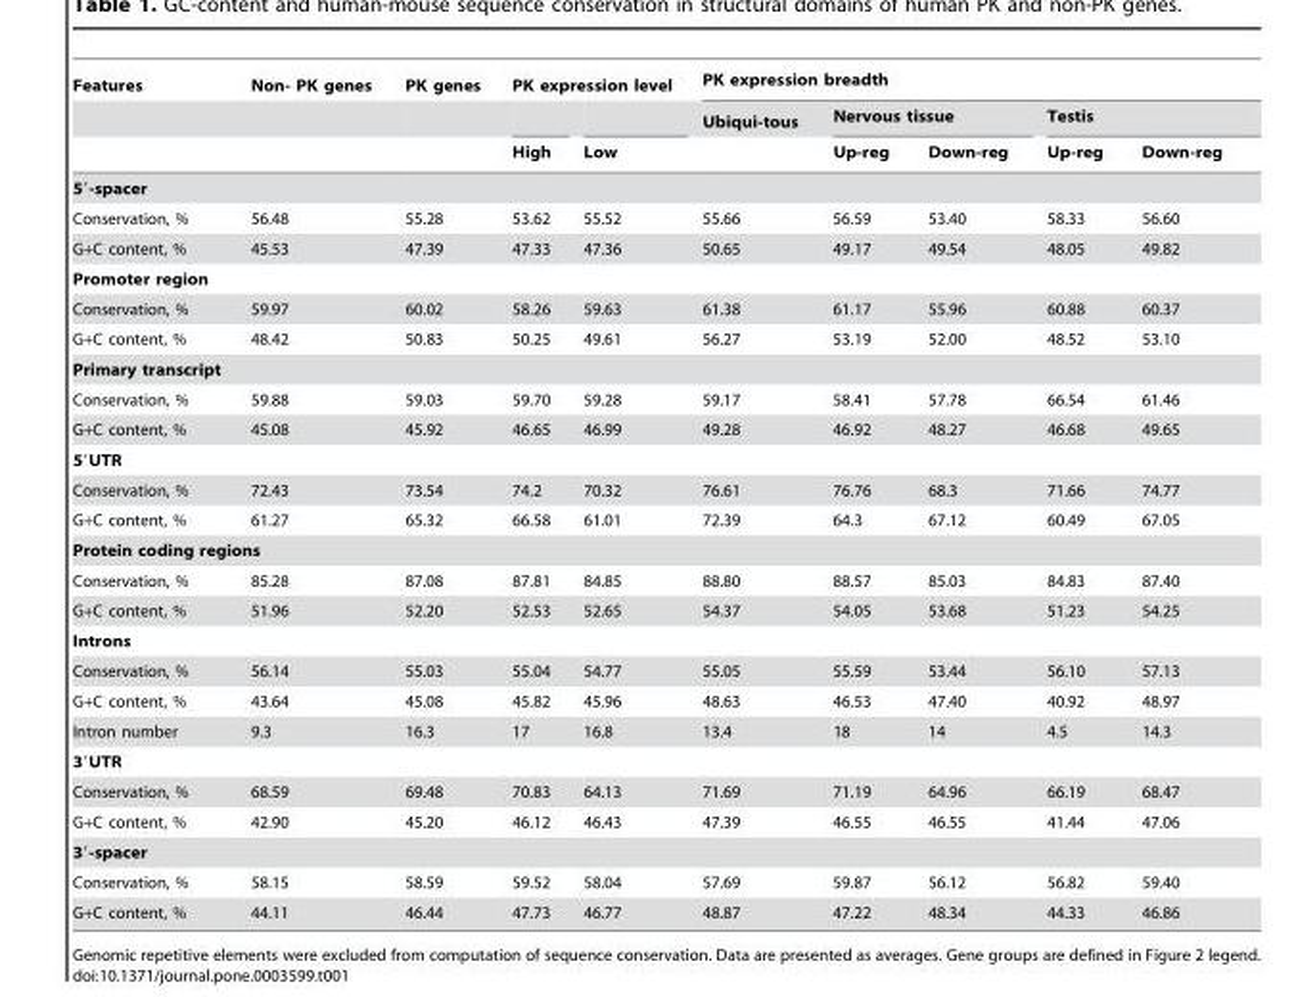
<table><thead><tr><td rowspan="3">Features</td><td rowspan="3">Non- PK genes</td><td rowspan="3">PK genes</td><td colspan="2">PK expression level</td><td colspan="5">PK expression breadth</td></tr><tr><td rowspan="2">High</td><td rowspan="2">Low</td><td rowspan="2">Ubiqui-tous</td><td colspan="2">Nervous tissue</td><td colspan="2">Testis</td></tr><tr><td>Up-reg</td><td>Down-reg</td><td>Up-reg</td><td>Down-reg</td></tr></thead><tbody><tr><td colspan="10">5′-spacer</td></tr><tr><td>Conservation, %</td><td>56.48</td><td>55.28</td><td>53.62</td><td>55.52</td><td>55.66</td><td>56.59</td><td>53.40</td><td>58.33</td><td>56.60</td></tr><tr><td>G+C content, %</td><td>45.53</td><td>47.39</td><td>47.33</td><td>47.36</td><td>50.65</td><td>49.17</td><td>49.54</td><td>48.05</td><td>49.82</td></tr><tr><td colspan="10">Promoter region</td></tr><tr><td>Conservation, %</td><td>59.97</td><td>60.02</td><td>58.26</td><td>59.63</td><td>61.38</td><td>61.17</td><td>55.96</td><td>60.88</td><td>60.37</td></tr><tr><td>G+C content, %</td><td>48.42</td><td>50.83</td><td>50.25</td><td>49.61</td><td>56.27</td><td>53.19</td><td>52.00</td><td>48.52</td><td>53.10</td></tr><tr><td colspan="10">Primary transcript</td></tr><tr><td>Conservation, %</td><td>59.88</td><td>59.03</td><td>59.70</td><td>59.28</td><td>59.17</td><td>58.41</td><td>57.78</td><td>66.54</td><td>61.46</td></tr><tr><td>G+C content, %</td><td>45.08</td><td>45.92</td><td>46.65</td><td>46.99</td><td>49.28</td><td>46.92</td><td>48.27</td><td>46.68</td><td>49.65</td></tr><tr><td colspan="10">5′UTR</td></tr><tr><td>Conservation, %</td><td>72.43</td><td>73.54</td><td>74.2</td><td>70.32</td><td>76.61</td><td>76.76</td><td>68.3</td><td>71.66</td><td>74.77</td></tr><tr><td>G+C content, %</td><td>61.27</td><td>65.32</td><td>66.58</td><td>61.01</td><td>72.39</td><td>64.3</td><td>67.12</td><td>60.49</td><td>67.05</td></tr><tr><td colspan="10">Protein coding regions</td></tr><tr><td>Conservation, %</td><td>85.28</td><td>87.08</td><td>87.81</td><td>84.85</td><td>88.80</td><td>88.57</td><td>85.03</td><td>84.83</td><td>87.40</td></tr><tr><td>G+C content, %</td><td>51.96</td><td>52.20</td><td>52.53</td><td>52.65</td><td>54.37</td><td>54.05</td><td>53.68</td><td>51.23</td><td>54.25</td></tr><tr><td colspan="10">Introns</td></tr><tr><td>Conservation, %</td><td>56.14</td><td>55.03</td><td>55.04</td><td>54.77</td><td>55.05</td><td>55.59</td><td>53.44</td><td>56.10</td><td>57.13</td></tr><tr><td>G+C content, %</td><td>43.64</td><td>45.08</td><td>45.82</td><td>45.96</td><td>48.63</td><td>46.53</td><td>47.40</td><td>40.92</td><td>48.97</td></tr><tr><td>Intron number</td><td>9.3</td><td>16.3</td><td>17</td><td>16.8</td><td>13.4</td><td>18</td><td>14</td><td>4.5</td><td>14.3</td></tr><tr><td colspan="10">3′UTR</td></tr><tr><td>Conservation, %</td><td>68.59</td><td>69.48</td><td>70.83</td><td>64.13</td><td>71.69</td><td>71.19</td><td>64.96</td><td>66.19</td><td>68.47</td></tr><tr><td>G+C content, %</td><td>42.90</td><td>45.20</td><td>46.12</td><td>46.43</td><td>47.39</td><td>46.55</td><td>46.55</td><td>41.44</td><td>47.06</td></tr><tr><td colspan="10">3′-spacer</td></tr><tr><td>Conservation, %</td><td>58.15</td><td>58.59</td><td>59.52</td><td>58.04</td><td>57.69</td><td>59.87</td><td>56.12</td><td>56.82</td><td>59.40</td></tr><tr><td>G+C content, %</td><td>44.11</td><td>46.44</td><td>47.73</td><td>46.77</td><td>48.87</td><td>47.22</td><td>48.34</td><td>44.33</td><td>46.86</td></tr></tbody></table>